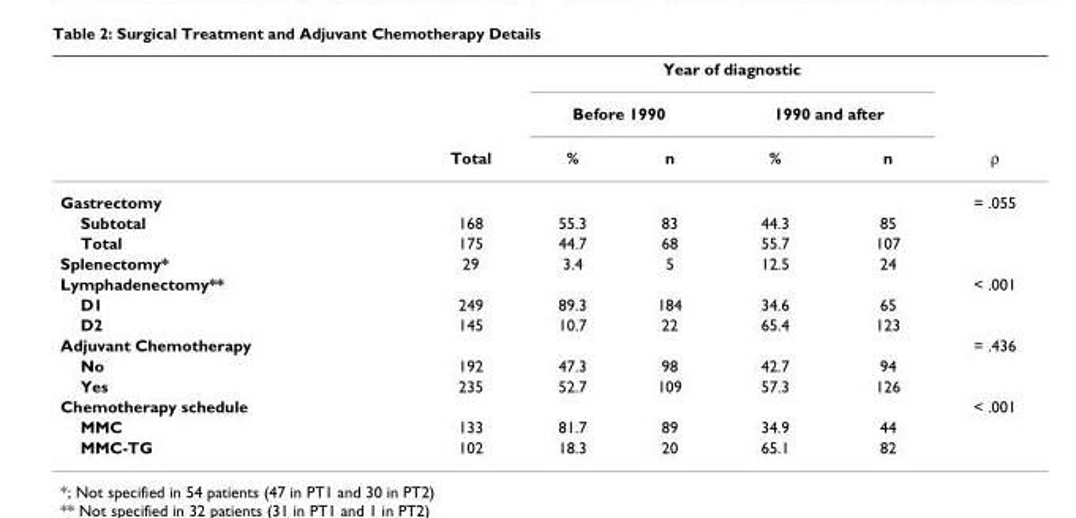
<table><thead><tr><td rowspan="3"></td><td rowspan="3">Total</td><td colspan="4">Year of diagnostic</td><td rowspan="3">ρ</td></tr><tr><td colspan="2">Before 1990</td><td colspan="2">1990 and after</td></tr><tr><td>%</td><td>n</td><td>%</td><td>n</td></tr></thead><tbody><tr><td>Gastrectomy</td><td></td><td></td><td></td><td></td><td></td><td>= .055</td></tr><tr><td>Subtotal</td><td>168</td><td>55.3</td><td>83</td><td>44.3</td><td>85</td><td></td></tr><tr><td>Total</td><td>175</td><td>44.7</td><td>68</td><td>55.7</td><td>107</td><td></td></tr><tr><td>Splenectomy*</td><td>29</td><td>3.4</td><td>5</td><td>12.5</td><td>24</td><td></td></tr><tr><td>Lymphadenectomy**</td><td></td><td></td><td></td><td></td><td></td><td>&lt; .001</td></tr><tr><td>D1</td><td>249</td><td>89.3</td><td>184</td><td>34.6</td><td>65</td><td></td></tr><tr><td>D2</td><td>145</td><td>10.7</td><td>22</td><td>65.4</td><td>123</td><td></td></tr><tr><td>Adjuvant Chemotherapy</td><td></td><td></td><td></td><td></td><td></td><td>= .436</td></tr><tr><td>No</td><td>192</td><td>47.3</td><td>98</td><td>42.7</td><td>94</td><td></td></tr><tr><td>Yes</td><td>235</td><td>52.7</td><td>109</td><td>57.3</td><td>126</td><td></td></tr><tr><td>Chemotherapy schedule</td><td></td><td></td><td></td><td></td><td></td><td>&lt; .001</td></tr><tr><td>MMC</td><td>133</td><td>81.7</td><td>89</td><td>34.9</td><td>44</td><td></td></tr><tr><td>MMC-TG</td><td>102</td><td>18.3</td><td>20</td><td>65.1</td><td>82</td><td></td></tr></tbody></table>